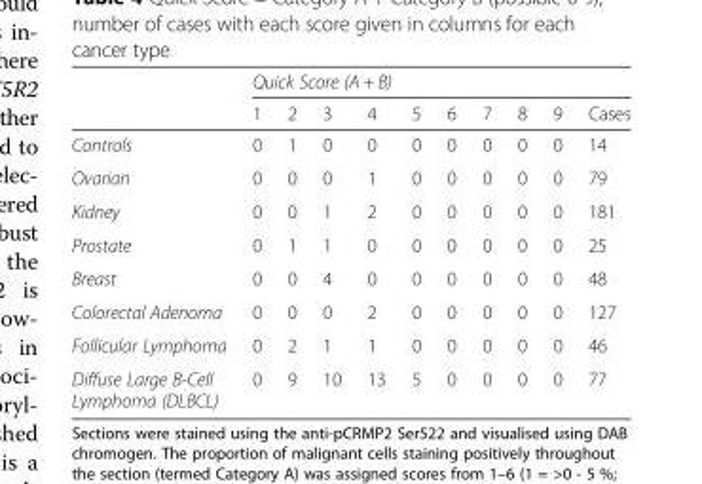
<table><thead><tr><td rowspan="2"></td><td colspan="10">Quick Score (A + B)</td></tr><tr><td>1</td><td>2</td><td>3</td><td>4</td><td>5</td><td>6</td><td>7</td><td>8</td><td>9</td><td>Cases</td></tr></thead><tbody><tr><td>Controls</td><td>0</td><td>1</td><td>0</td><td>0</td><td>0</td><td>0</td><td>0</td><td>0</td><td>0</td><td>14</td></tr><tr><td>Ovarian</td><td>0</td><td>0</td><td>0</td><td>1</td><td>0</td><td>0</td><td>0</td><td>0</td><td>0</td><td>79</td></tr><tr><td>Kidney</td><td>0</td><td>0</td><td>1</td><td>2</td><td>0</td><td>0</td><td>0</td><td>0</td><td>0</td><td>181</td></tr><tr><td>Prostate</td><td>0</td><td>1</td><td>1</td><td>0</td><td>0</td><td>0</td><td>0</td><td>0</td><td>0</td><td>25</td></tr><tr><td>Breast</td><td>0</td><td>0</td><td>4</td><td>0</td><td>0</td><td>0</td><td>0</td><td>0</td><td>0</td><td>48</td></tr><tr><td>Colorectal Adenoma</td><td>0</td><td>0</td><td>0</td><td>2</td><td>0</td><td>0</td><td>0</td><td>0</td><td>0</td><td>127</td></tr><tr><td>Follicular Lymphoma</td><td>0</td><td>2</td><td>1</td><td>1</td><td>0</td><td>0</td><td>0</td><td>0</td><td>0</td><td>46</td></tr><tr><td>Diffuse Large B-Cell Lymphoma (DLBCL)</td><td>0</td><td>9</td><td>10</td><td>13</td><td>5</td><td>0</td><td>0</td><td>0</td><td>0</td><td>77</td></tr></tbody></table>